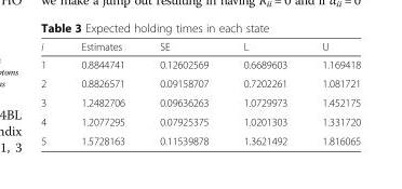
<table><thead><tr><td>i</td><td>Estimates</td><td>SE</td><td>L</td><td>U</td></tr></thead><tbody><tr><td>1</td><td>0.8844741</td><td>0.12602569</td><td>0.6689603</td><td>1.169418</td></tr><tr><td>2</td><td>0.8826571</td><td>0.09158707</td><td>0.7202261</td><td>1.081721</td></tr><tr><td>3</td><td>1.2482706</td><td>0.09636263</td><td>1.0729973</td><td>1.452175</td></tr><tr><td>4</td><td>1.2077295</td><td>0.07925375</td><td>1.0201303</td><td>1.331720</td></tr><tr><td>5</td><td>1.5728163</td><td>0.11539878</td><td>1.3621492</td><td>1.816065</td></tr></tbody></table>